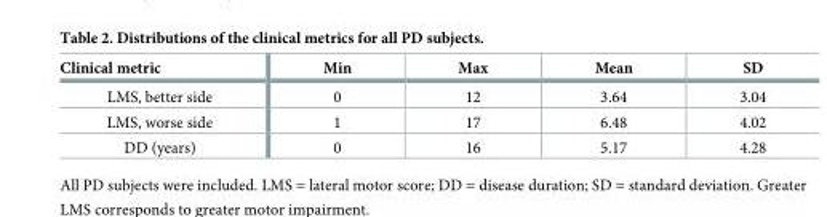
<table><thead><tr><td>Clinical metric</td><td>Min</td><td>Max</td><td>Mean</td><td>SD</td></tr></thead><tbody><tr><td>LMS, better side</td><td>0</td><td>12</td><td>3.64</td><td>3.04</td></tr><tr><td>LMS, worse side</td><td>1</td><td>17</td><td>6.48</td><td>4.02</td></tr><tr><td>DD (years)</td><td>0</td><td>16</td><td>5.17</td><td>4.28</td></tr></tbody></table>